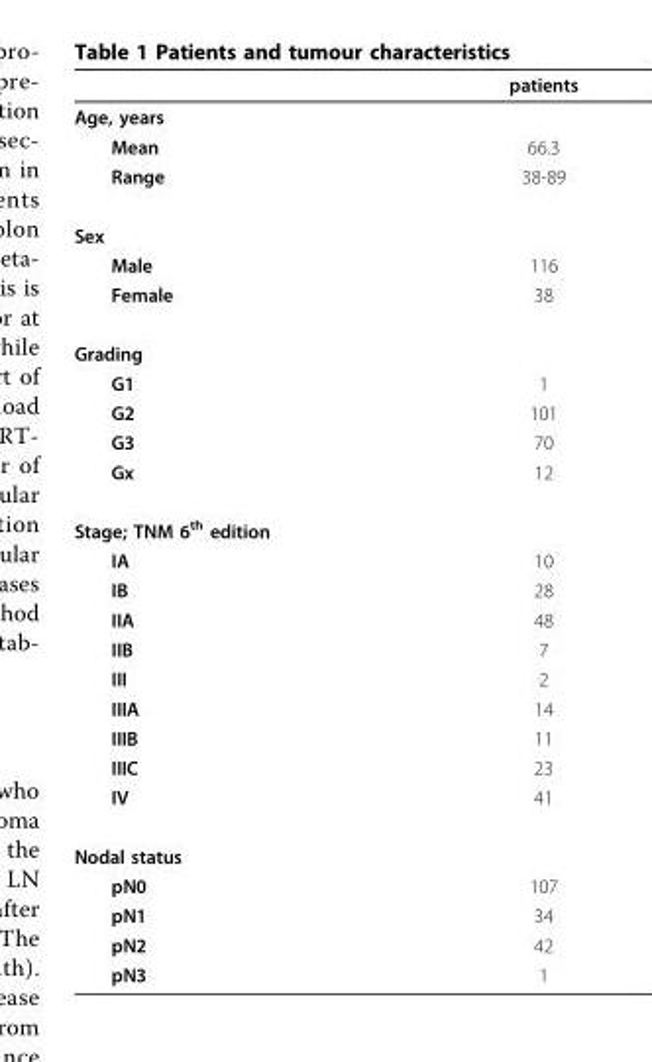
<table><thead><tr><td></td><td>patients</td></tr></thead><tbody><tr><td colspan="2">Age, years</td></tr><tr><td>Mean</td><td>66.3</td></tr><tr><td>Range</td><td>38-89</td></tr><tr><td colspan="2">Sex</td></tr><tr><td>Male</td><td>116</td></tr><tr><td>Female</td><td>38</td></tr><tr><td colspan="2">Grading</td></tr><tr><td>G1</td><td>1</td></tr><tr><td>G2</td><td>101</td></tr><tr><td>G3</td><td>70</td></tr><tr><td>Gx</td><td>12</td></tr><tr><td colspan="2">Stage; TNM 6<sup>th</sup> edition</td></tr><tr><td>IA</td><td>10</td></tr><tr><td>IB</td><td>28</td></tr><tr><td>IIA</td><td>48</td></tr><tr><td>IIB</td><td>7</td></tr><tr><td>III</td><td>2</td></tr><tr><td>IIIA</td><td>14</td></tr><tr><td>IIIB</td><td>11</td></tr><tr><td>IIIC</td><td>23</td></tr><tr><td>IV</td><td>41</td></tr><tr><td colspan="2">Nodal status</td></tr><tr><td>pN0</td><td>107</td></tr><tr><td>pN1</td><td>34</td></tr><tr><td>pN2</td><td>42</td></tr><tr><td>pN3</td><td>1</td></tr></tbody></table>